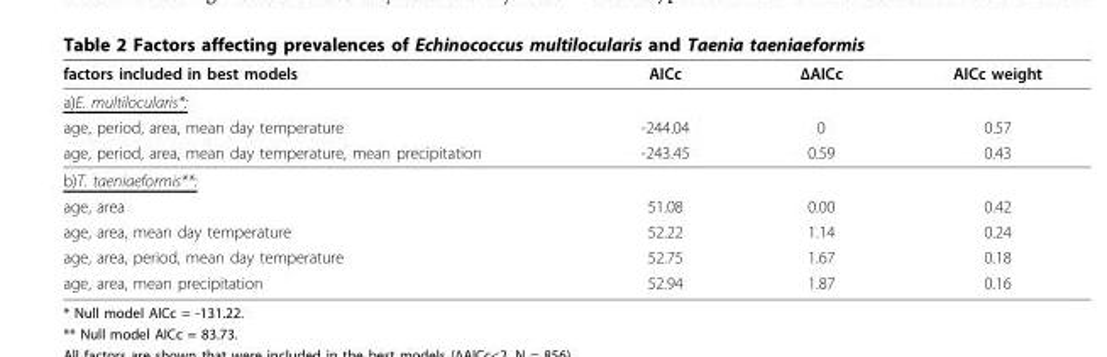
<table><thead><tr><td>factors included in best models</td><td>AICc</td><td>ΔAICc</td><td>AICc weight</td></tr></thead><tbody><tr><td colspan="4">a)E. multilocularis*:</td></tr><tr><td>age, period, area, mean day temperature</td><td>-244.04</td><td>0</td><td>0.57</td></tr><tr><td>age, period, area, mean day temperature, mean precipitation</td><td>-243.45</td><td>0.59</td><td>0.43</td></tr><tr><td colspan="4">b)T. taeniaeformis**:</td></tr><tr><td>age, area</td><td>51.08</td><td>0.00</td><td>0.42</td></tr><tr><td>age, area, mean day temperature</td><td>52.22</td><td>1.14</td><td>0.24</td></tr><tr><td>age, area, period, mean day temperature</td><td>52.75</td><td>1.67</td><td>0.18</td></tr><tr><td>age, area, mean precipitation</td><td>52.94</td><td>1.87</td><td>0.16</td></tr></tbody></table>